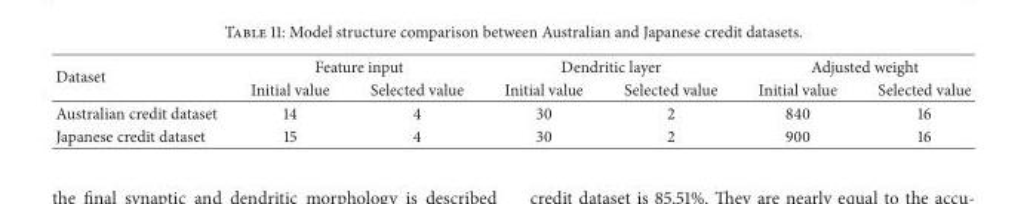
<table><thead><tr><td rowspan="2">Dataset</td><td colspan="2">Feature input</td><td colspan="2">Dendritic layer</td><td colspan="2">Adjusted weight</td></tr><tr><td>Initial value</td><td>Selected value</td><td>Initial value</td><td>Selected value</td><td>Initial value</td><td>Selected value</td></tr></thead><tbody><tr><td>Australian credit dataset</td><td>14</td><td>4</td><td>30</td><td>2</td><td>840</td><td>16</td></tr><tr><td>Japanese credit dataset</td><td>15</td><td>4</td><td>30</td><td>2</td><td>900</td><td>16</td></tr></tbody></table>